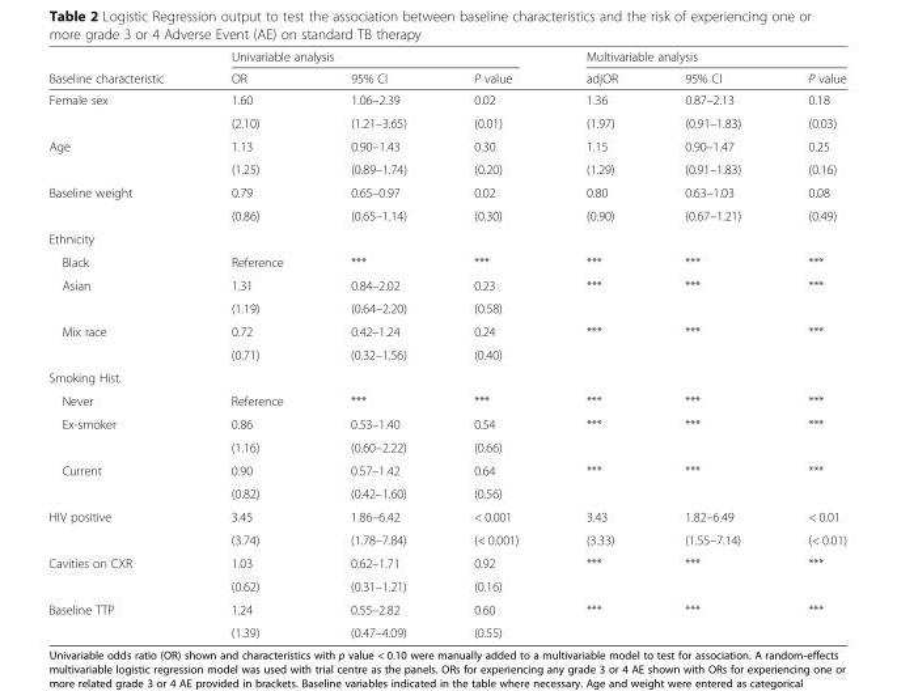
<table><thead><tr><td rowspan="2">Baseline characteristic</td><td colspan="3">Univariable analysis</td><td colspan="3">Multivariable analysis</td></tr><tr><td>OR</td><td>95% CI</td><td>P value</td><td>adjOR</td><td>95% CI</td><td>P value</td></tr></thead><tbody><tr><td rowspan="2">Female sex</td><td>1.60</td><td>1.06–2.39</td><td>0.02</td><td>1.36</td><td>0.87–2.13</td><td>0.18</td></tr><tr><td>(2.10)</td><td>(1.21–3.65)</td><td>(0.01)</td><td>(1.97)</td><td>(0.91–1.83)</td><td>(0.03)</td></tr><tr><td rowspan="2">Age</td><td>1.13</td><td>0.90–1.43</td><td>0.30</td><td>1.15</td><td>0.90–1.47</td><td>0.25</td></tr><tr><td>(1.25)</td><td>(0.89–1.74)</td><td>(0.20)</td><td>(1.29)</td><td>(0.91–1.83)</td><td>(0.16)</td></tr><tr><td rowspan="2">Baseline weight</td><td>0.79</td><td>0.65–0.97</td><td>0.02</td><td>0.80</td><td>0.63–1.03</td><td>0.08</td></tr><tr><td>(0.86)</td><td>(0.65–1.14)</td><td>(0.30)</td><td>(0.90)</td><td>(0.67–1.21)</td><td>(0.49)</td></tr><tr><td colspan="7">Ethnicity</td></tr><tr><td>Black</td><td>Reference</td><td>***</td><td>***</td><td>***</td><td>***</td><td>***</td></tr><tr><td rowspan="2">Asian</td><td>1.31</td><td>0.84–2.02</td><td>0.23</td><td rowspan="2">***</td><td rowspan="2">***</td><td rowspan="2">***</td></tr><tr><td>(1.19)</td><td>(0.64–2.20)</td><td>(0.58)</td></tr><tr><td rowspan="2">Mix race</td><td>0.72</td><td>0.42–1.24</td><td>0.24</td><td rowspan="2">***</td><td rowspan="2">***</td><td rowspan="2">***</td></tr><tr><td>(0.71)</td><td>(0.32–1.56)</td><td>(0.40)</td></tr><tr><td colspan="7">Smoking Hist.</td></tr><tr><td>Never</td><td>Reference</td><td>***</td><td>***</td><td>***</td><td>***</td><td>***</td></tr><tr><td rowspan="2">Ex-smoker</td><td>0.86</td><td>0.53–1.40</td><td>0.54</td><td rowspan="2">***</td><td rowspan="2">***</td><td rowspan="2">***</td></tr><tr><td>(1.16)</td><td>(0.60–2.22)</td><td>(0.66)</td></tr><tr><td rowspan="2">Current</td><td>0.90</td><td>0.57–1.42</td><td>0.64</td><td rowspan="2">***</td><td rowspan="2">***</td><td rowspan="2">***</td></tr><tr><td>(0.82)</td><td>(0.42–1.60)</td><td>(0.56)</td></tr><tr><td rowspan="2">HIV positive</td><td>3.45</td><td>1.86–6.42</td><td>&lt; 0.001</td><td>3.43</td><td>1.82–6.49</td><td>&lt; 0.01</td></tr><tr><td>(3.74)</td><td>(1.78–7.84)</td><td>(&lt; 0.001)</td><td>(3.33)</td><td>(1.55–7.14)</td><td>(&lt; 0.01)</td></tr><tr><td rowspan="2">Cavities on CXR</td><td>1.03</td><td>0.62–1.71</td><td>0.92</td><td rowspan="2">***</td><td rowspan="2">***</td><td rowspan="2">***</td></tr><tr><td>(0.62)</td><td>(0.31–1.21)</td><td>(0.16)</td></tr><tr><td rowspan="2">Baseline TTP</td><td>1.24</td><td>0.55–2.82</td><td>0.60</td><td rowspan="2">***</td><td rowspan="2">***</td><td rowspan="2">***</td></tr><tr><td>(1.39)</td><td>(0.47–4.09)</td><td>(0.55)</td></tr></tbody></table>